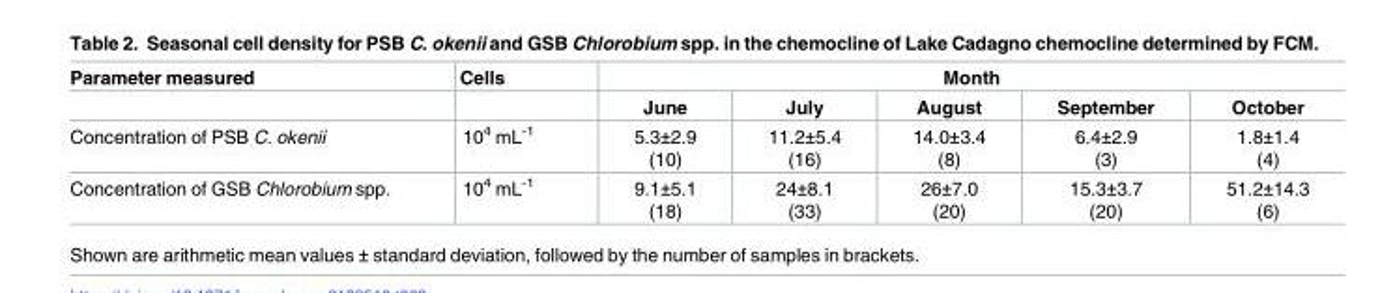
<table><thead><tr><td rowspan="2">Parameter measured</td><td rowspan="2">Cells</td><td colspan="5">Month</td></tr><tr><td>June</td><td>July</td><td>August</td><td>September</td><td>October</td></tr></thead><tbody><tr><td>Concentration of PSB C. okenii</td><td>10<sup>4</sup> mL<sup>-1</sup></td><td>5.3±2.9 (10)</td><td>11.2±5.4 (16)</td><td>14.0±3.4 (8)</td><td>6.4±2.9 (3)</td><td>1.8±1.4 (4)</td></tr><tr><td>Concentration of GSB Chlorobium spp.</td><td>10<sup>4</sup> mL<sup>-1</sup></td><td>9.1±5.1 (18)</td><td>24±8.1 (33)</td><td>26±7.0 (20)</td><td>15.3±3.7 (20)</td><td>51.2±14.3 (6)</td></tr></tbody></table>